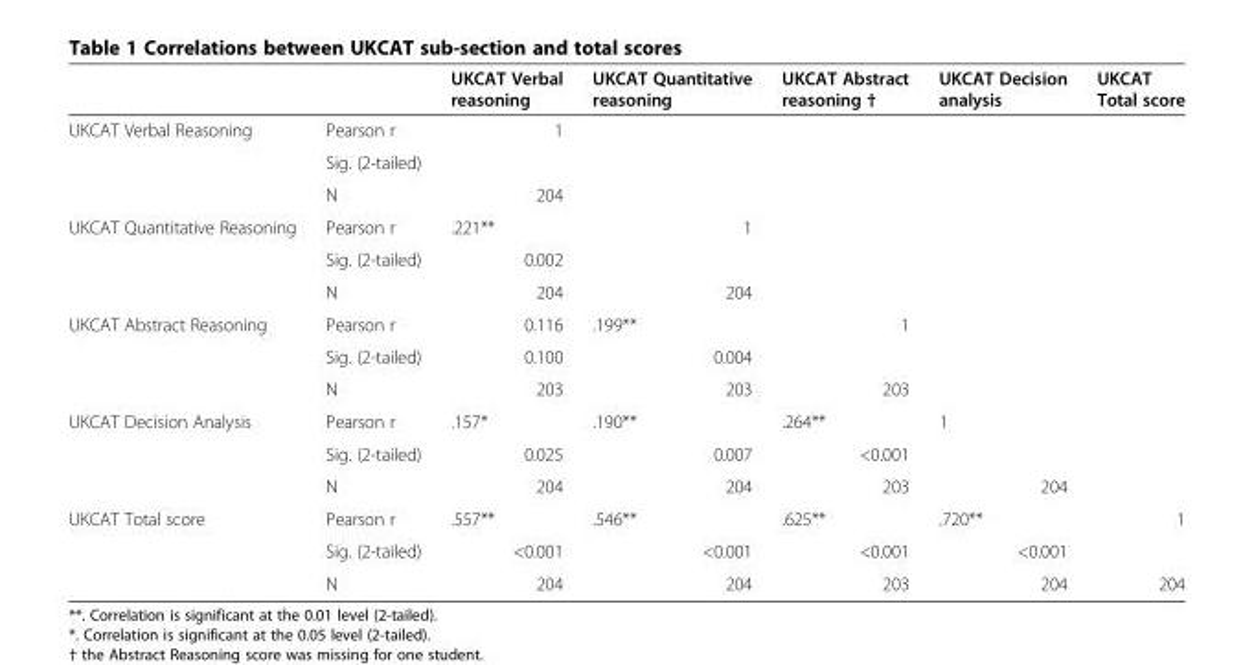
<table><thead><tr><td></td><td></td><td>UKCAT Verbal reasoning</td><td>UKCAT Quantitative reasoning</td><td>UKCAT Abstract reasoning †</td><td>UKCAT Decision analysis</td><td>UKCAT Total score</td></tr></thead><tbody><tr><td rowspan="3">UKCAT Verbal Reasoning</td><td>Pearson r</td><td>1</td><td></td><td></td><td></td><td></td></tr><tr><td>Sig. (2-tailed)</td><td></td><td></td><td></td><td></td><td></td></tr><tr><td>N</td><td>204</td><td></td><td></td><td></td><td></td></tr><tr><td rowspan="3">UKCAT Quantitative Reasoning</td><td>Pearson r</td><td>.221**</td><td>1</td><td></td><td></td><td></td></tr><tr><td>Sig. (2-tailed)</td><td>0.002</td><td></td><td></td><td></td><td></td></tr><tr><td>N</td><td>204</td><td>204</td><td></td><td></td><td></td></tr><tr><td rowspan="3">UKCAT Abstract Reasoning</td><td>Pearson r</td><td>0.116</td><td>.199**</td><td>1</td><td></td><td></td></tr><tr><td>Sig. (2-tailed)</td><td>0.100</td><td>0.004</td><td></td><td></td><td></td></tr><tr><td>N</td><td>203</td><td>203</td><td>203</td><td></td><td></td></tr><tr><td rowspan="3">UKCAT Decision Analysis</td><td>Pearson r</td><td>.157*</td><td>.190**</td><td>.264**</td><td>1</td><td></td></tr><tr><td>Sig. (2-tailed)</td><td>0.025</td><td>0.007</td><td>&lt;0.001</td><td></td><td></td></tr><tr><td>N</td><td>204</td><td>204</td><td>203</td><td>204</td><td></td></tr><tr><td rowspan="3">UKCAT Total score</td><td>Pearson r</td><td>.557**</td><td>.546**</td><td>.625**</td><td>.720**</td><td>1</td></tr><tr><td>Sig. (2-tailed)</td><td>&lt;0.001</td><td>&lt;0.001</td><td>&lt;0.001</td><td>&lt;0.001</td><td></td></tr><tr><td>N</td><td>204</td><td>204</td><td>203</td><td>204</td><td>204</td></tr></tbody></table>